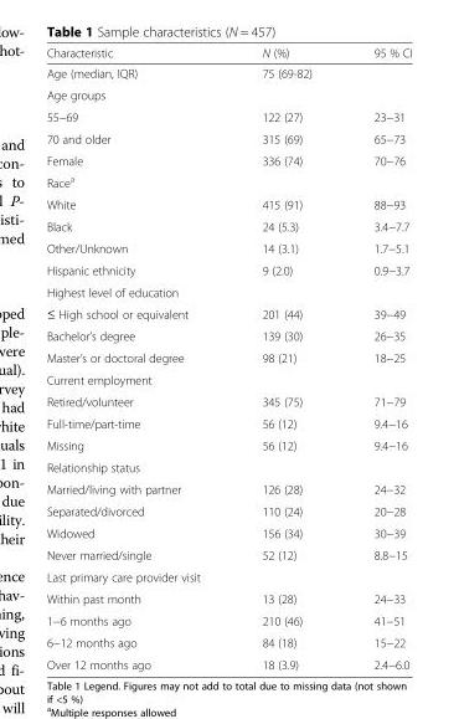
<table><thead><tr><td>Characteristic</td><td>N (%)</td><td>95 % CI</td></tr></thead><tbody><tr><td>Age (median, IQR)</td><td>75 (69-82)</td><td></td></tr><tr><td colspan="3">Age groups</td></tr><tr><td>55−69</td><td>122 (27)</td><td>23−31</td></tr><tr><td>70 and older</td><td>315 (69)</td><td>65−73</td></tr><tr><td>Female</td><td>336 (74)</td><td>70−76</td></tr><tr><td colspan="3">Race<sup>a</sup></td></tr><tr><td>White</td><td>415 (91)</td><td>88−93</td></tr><tr><td>Black</td><td>24 (5.3)</td><td>3.4−7.7</td></tr><tr><td>Other/Unknown</td><td>14 (3.1)</td><td>1.7−5.1</td></tr><tr><td>Hispanic ethnicity</td><td>9 (2.0)</td><td>0.9−3.7</td></tr><tr><td colspan="3">Highest level of education</td></tr><tr><td>≤ High school or equivalent</td><td>201 (44)</td><td>39−49</td></tr><tr><td>Bachelor’s degree</td><td>139 (30)</td><td>26−35</td></tr><tr><td>Master’s or doctoral degree</td><td>98 (21)</td><td>18−25</td></tr><tr><td colspan="3">Current employment</td></tr><tr><td>Retired/volunteer</td><td>345 (75)</td><td>71−79</td></tr><tr><td>Full-time/part-time</td><td>56 (12)</td><td>9.4−16</td></tr><tr><td>Missing</td><td>56 (12)</td><td>9.4−16</td></tr><tr><td colspan="3">Relationship status</td></tr><tr><td>Married/living with partner</td><td>126 (28)</td><td>24−32</td></tr><tr><td>Separated/divorced</td><td>110 (24)</td><td>20−28</td></tr><tr><td>Widowed</td><td>156 (34)</td><td>30−39</td></tr><tr><td>Never married/single</td><td>52 (12)</td><td>8.8−15</td></tr><tr><td colspan="3">Last primary care provider visit</td></tr><tr><td>Within past month</td><td>13 (28)</td><td>24−33</td></tr><tr><td>1−6 months ago</td><td>210 (46)</td><td>41−51</td></tr><tr><td>6−12 months ago</td><td>84 (18)</td><td>15−22</td></tr><tr><td>Over 12 months ago</td><td>18 (3.9)</td><td>2.4−6.0</td></tr></tbody></table>